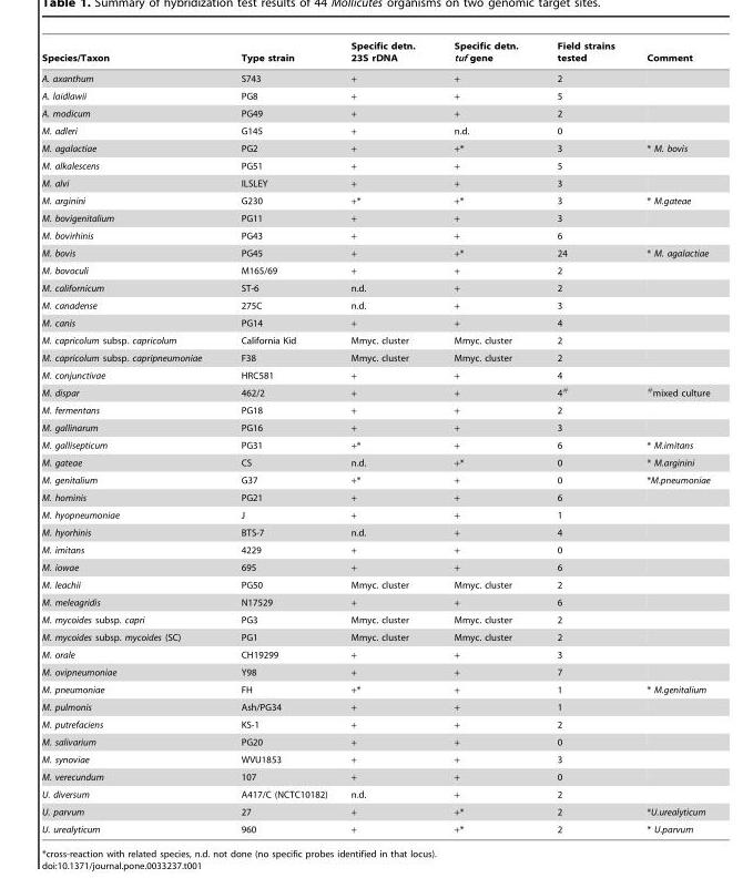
<table><thead><tr><td>Species/Taxon</td><td>Type strain</td><td>Specific detn. 23S rDNA</td><td>Specific detn. tuf gene</td><td>Field strains tested</td><td>Comment</td></tr></thead><tbody><tr><td>A. axanthum</td><td>S743</td><td>+</td><td>+</td><td>2</td><td></td></tr><tr><td>A. laidlawii</td><td>PG8</td><td>+</td><td>+</td><td>5</td><td></td></tr><tr><td>A. modicum</td><td>PG49</td><td>+</td><td>+</td><td>2</td><td></td></tr><tr><td>M. adleri</td><td>G145</td><td>+</td><td>n.d.</td><td>0</td><td></td></tr><tr><td>M. agalactiae</td><td>PG2</td><td>+</td><td>+*</td><td>3</td><td>* M. bovis</td></tr><tr><td>M. alkalescens</td><td>PG51</td><td>+</td><td>+</td><td>5</td><td></td></tr><tr><td>M. alvi</td><td>ILSLEY</td><td>+</td><td>+</td><td>3</td><td></td></tr><tr><td>M. arginini</td><td>G230</td><td>+*</td><td>+*</td><td>3</td><td>* M.gateae</td></tr><tr><td>M. bovigenitalium</td><td>PG11</td><td>+</td><td>+</td><td>3</td><td></td></tr><tr><td>M. bovirhinis</td><td>PG43</td><td>+</td><td>+</td><td>6</td><td></td></tr><tr><td>M. bovis</td><td>PG45</td><td>+</td><td>+*</td><td>24</td><td>* M. agalactiae</td></tr><tr><td>M. bovoculi</td><td>M165/69</td><td>+</td><td>+</td><td>2</td><td></td></tr><tr><td>M. californicum</td><td>ST-6</td><td>n.d.</td><td>+</td><td>2</td><td></td></tr><tr><td>M. canadense</td><td>275C</td><td>n.d.</td><td>+</td><td>3</td><td></td></tr><tr><td>M. canis</td><td>PG14</td><td>+</td><td>+</td><td>4</td><td></td></tr><tr><td>M. capricolum subsp. capricolum</td><td>California Kid</td><td>Mmyc. cluster</td><td>Mmyc. cluster</td><td>2</td><td></td></tr><tr><td>M. capricolum subsp. capripneumoniae</td><td>F38</td><td>Mmyc. cluster</td><td>Mmyc. cluster</td><td>2</td><td></td></tr><tr><td>M. conjunctivae</td><td>HRC581</td><td>+</td><td>+</td><td>4</td><td></td></tr><tr><td>M. dispar</td><td>462/2</td><td>+</td><td>+</td><td>4<sup>#</sup></td><td><sup>#</sup>mixed culture</td></tr><tr><td>M. fermentans</td><td>PG18</td><td>+</td><td>+</td><td>2</td><td></td></tr><tr><td>M. gallinarum</td><td>PG16</td><td>+</td><td>+</td><td>3</td><td></td></tr><tr><td>M. gallisepticum</td><td>PG31</td><td>+*</td><td>+</td><td>6</td><td>* M.imitans</td></tr><tr><td>M. gateae</td><td>CS</td><td>n.d.</td><td>+*</td><td>0</td><td>* M.arginini</td></tr><tr><td>M. genitalium</td><td>G37</td><td>+*</td><td>+</td><td>0</td><td>*M.pneumoniae</td></tr><tr><td>M. hominis</td><td>PG21</td><td>+</td><td>+</td><td>6</td><td></td></tr><tr><td>M. hyopneumoniae</td><td>J</td><td>+</td><td>+</td><td>1</td><td></td></tr><tr><td>M. hyorhinis</td><td>BTS-7</td><td>n.d.</td><td>+</td><td>4</td><td></td></tr><tr><td>M. imitans</td><td>4229</td><td>+</td><td>+</td><td>0</td><td></td></tr><tr><td>M. iowae</td><td>695</td><td>+</td><td>+</td><td>6</td><td></td></tr><tr><td>M. leachii</td><td>PG50</td><td>Mmyc. cluster</td><td>Mmyc. cluster</td><td>2</td><td></td></tr><tr><td>M. meleagridis</td><td>N17529</td><td>+</td><td>+</td><td>6</td><td></td></tr><tr><td>M. mycoides subsp. capri</td><td>PG3</td><td>Mmyc. cluster</td><td>Mmyc. cluster</td><td>2</td><td></td></tr><tr><td>M. mycoides subsp. mycoides (SC)</td><td>PG1</td><td>Mmyc. cluster</td><td>Mmyc. cluster</td><td>2</td><td></td></tr><tr><td>M. orale</td><td>CH19299</td><td>+</td><td>+</td><td>3</td><td></td></tr><tr><td>M. ovipneumoniae</td><td>Y98</td><td>+</td><td>+</td><td>7</td><td></td></tr><tr><td>M. pneumoniae</td><td>FH</td><td>+*</td><td>+</td><td>1</td><td>* M.genitalium</td></tr><tr><td>M. pulmonis</td><td>Ash/PG34</td><td>+</td><td>+</td><td>1</td><td></td></tr><tr><td>M. putrefaciens</td><td>KS-1</td><td>+</td><td>+</td><td>2</td><td></td></tr><tr><td>M. salivarium</td><td>PG20</td><td>+</td><td>+</td><td>0</td><td></td></tr><tr><td>M. synoviae</td><td>WVU1853</td><td>+</td><td>+</td><td>3</td><td></td></tr><tr><td>M. verecundum</td><td>107</td><td>+</td><td>+</td><td>0</td><td></td></tr><tr><td>U. diversum</td><td>A417/C (NCTC10182)</td><td>n.d.</td><td>+</td><td>2</td><td></td></tr><tr><td>U. parvum</td><td>27</td><td>+</td><td>+*</td><td>2</td><td>*U.urealyticum</td></tr><tr><td>U. urealyticum</td><td>960</td><td>+</td><td>+*</td><td>2</td><td>* U.parvum</td></tr></tbody></table>